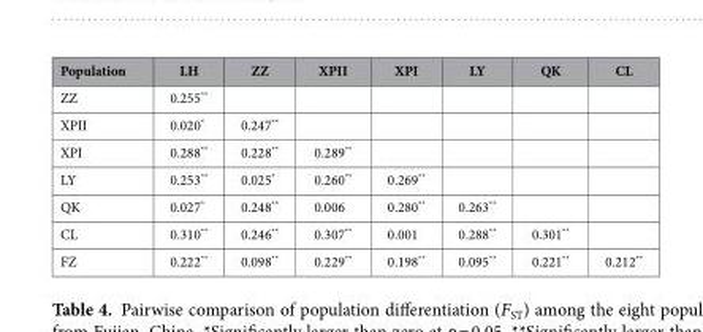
<table><thead><tr><td>Population</td><td>LH</td><td>ZZ</td><td>XPII</td><td>XPI</td><td>LY</td><td>QK</td><td>CL</td></tr></thead><tbody><tr><td>ZZ</td><td>0.255**</td><td></td><td></td><td></td><td></td><td></td><td></td></tr><tr><td>XPII</td><td>0.020*</td><td>0.247**</td><td></td><td></td><td></td><td></td><td></td></tr><tr><td>XPI</td><td>0.288**</td><td>0.228**</td><td>0.289**</td><td></td><td></td><td></td><td></td></tr><tr><td>LY</td><td>0.253**</td><td>0.025*</td><td>0.260**</td><td>0.269**</td><td></td><td></td><td></td></tr><tr><td>QK</td><td>0.027*</td><td>0.248**</td><td>0.006</td><td>0.280**</td><td>0.263**</td><td></td><td></td></tr><tr><td>CL</td><td>0.310**</td><td>0.246**</td><td>0.307**</td><td>0.001</td><td>0.288**</td><td>0.301**</td><td></td></tr><tr><td>FZ</td><td>0.222**</td><td>0.098**</td><td>0.229**</td><td>0.198**</td><td>0.095**</td><td>0.221**</td><td>0.212**</td></tr></tbody></table>